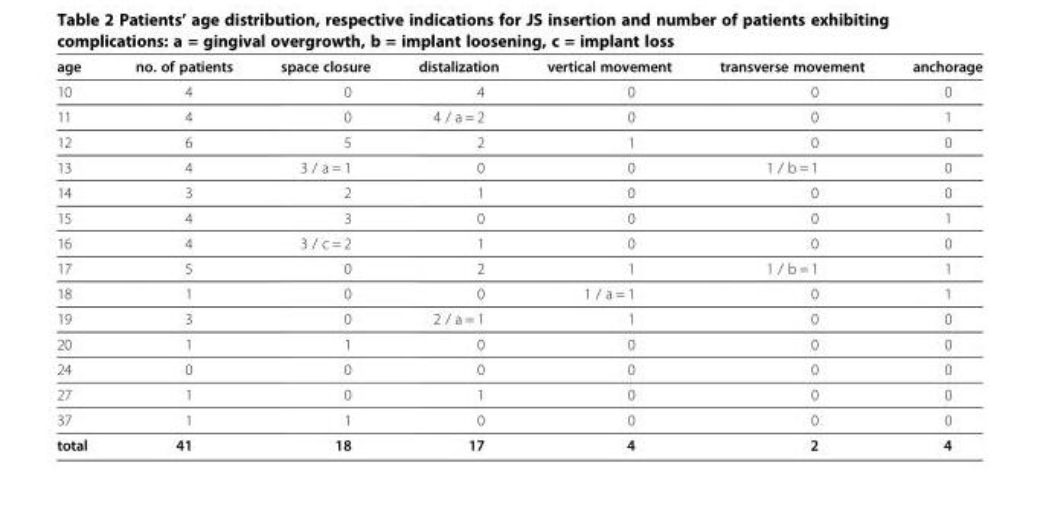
<table><thead><tr><td>age</td><td>no. of patients</td><td>space closure</td><td>distalization</td><td>vertical movement</td><td>transverse movement</td><td>anchorage</td></tr></thead><tbody><tr><td>10</td><td>4</td><td>0</td><td>4</td><td>0</td><td>0</td><td>0</td></tr><tr><td>11</td><td>4</td><td>0</td><td>4 / a = 2</td><td>0</td><td>0</td><td>1</td></tr><tr><td>12</td><td>6</td><td>5</td><td>2</td><td>1</td><td>0</td><td>0</td></tr><tr><td>13</td><td>4</td><td>3 / a = 1</td><td>0</td><td>0</td><td>1 / b = 1</td><td>0</td></tr><tr><td>14</td><td>3</td><td>2</td><td>1</td><td>0</td><td>0</td><td>0</td></tr><tr><td>15</td><td>4</td><td>3</td><td>0</td><td>0</td><td>0</td><td>1</td></tr><tr><td>16</td><td>4</td><td>3 / c = 2</td><td>1</td><td>0</td><td>0</td><td>0</td></tr><tr><td>17</td><td>5</td><td>0</td><td>2</td><td>1</td><td>1 / b = 1</td><td>1</td></tr><tr><td>18</td><td>1</td><td>0</td><td>0</td><td>1 / a = 1</td><td>0</td><td>1</td></tr><tr><td>19</td><td>3</td><td>0</td><td>2 / a = 1</td><td>1</td><td>0</td><td>0</td></tr><tr><td>20</td><td>1</td><td>1</td><td>0</td><td>0</td><td>0</td><td>0</td></tr><tr><td>24</td><td>0</td><td>0</td><td>0</td><td>0</td><td>0</td><td>0</td></tr><tr><td>27</td><td>1</td><td>0</td><td>1</td><td>0</td><td>0</td><td>0</td></tr><tr><td>37</td><td>1</td><td>1</td><td>0</td><td>0</td><td>0</td><td>0</td></tr><tr><td>total</td><td>41</td><td>18</td><td>17</td><td>4</td><td>2</td><td>4</td></tr></tbody></table>